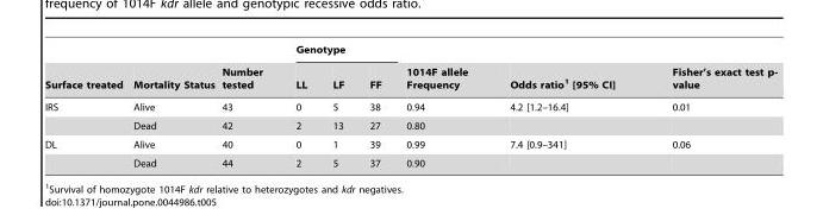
<table><thead><tr><td rowspan="2">Surface treated</td><td rowspan="2">Mortality Status</td><td rowspan="2">Number tested</td><td colspan="3">Genotype</td><td rowspan="2">1014F allele Frequency</td><td rowspan="2">Odds ratio<sup>1</sup> [95% CI]</td><td rowspan="2">Fisher’s exact test p- value</td></tr><tr><td>LL</td><td>LF</td><td>FF</td></tr></thead><tbody><tr><td rowspan="2">IRS</td><td>Alive</td><td>43</td><td>0</td><td>5</td><td>38</td><td>0.94</td><td>4.2 [1.2–16.4]</td><td>0.01</td></tr><tr><td>Dead</td><td>42</td><td>2</td><td>13</td><td>27</td><td>0.80</td><td></td><td></td></tr><tr><td rowspan="2">DL</td><td>Alive</td><td>40</td><td>0</td><td>1</td><td>39</td><td>0.99</td><td>7.4 [0.9–341]</td><td>0.06</td></tr><tr><td>Dead</td><td>44</td><td>2</td><td>5</td><td>37</td><td>0.90</td><td></td><td></td></tr></tbody></table>